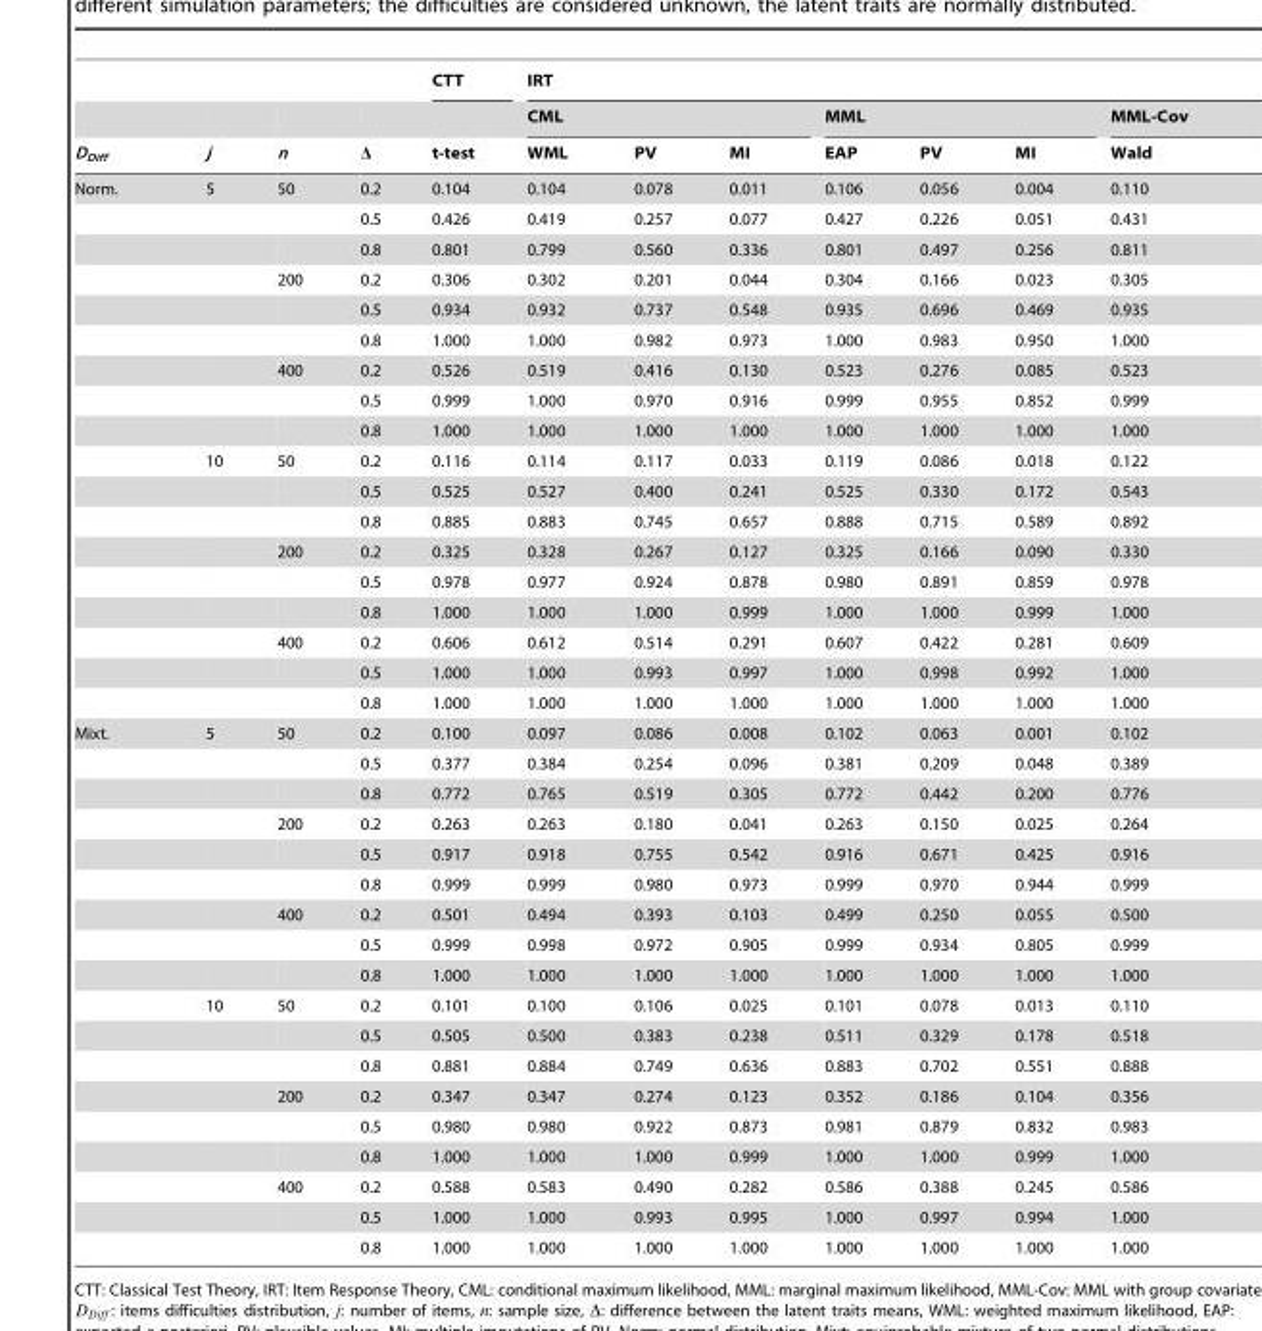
<table><thead><tr><td rowspan="3">D<sub>Diff</sub></td><td rowspan="3">j</td><td rowspan="3">n</td><td rowspan="3">Δ</td><td rowspan="3">CTT t-test</td><td colspan="7">IRT</td></tr><tr><td colspan="3">CML</td><td colspan="3">MML</td><td rowspan="2">MML-Cov Wald</td></tr><tr><td>WML</td><td>PV</td><td>MI</td><td>EAP</td><td>PV</td><td>MI</td></tr></thead><tbody><tr><td rowspan="18">Norm.</td><td>5</td><td>50</td><td>0.2</td><td>0.104</td><td>0.104</td><td>0.078</td><td>0.011</td><td>0.106</td><td>0.056</td><td>0.004</td><td>0.110</td></tr><tr><td></td><td></td><td>0.5</td><td>0.426</td><td>0.419</td><td>0.257</td><td>0.077</td><td>0.427</td><td>0.226</td><td>0.051</td><td>0.431</td></tr><tr><td></td><td></td><td>0.8</td><td>0.801</td><td>0.799</td><td>0.560</td><td>0.336</td><td>0.801</td><td>0.497</td><td>0.256</td><td>0.811</td></tr><tr><td></td><td>200</td><td>0.2</td><td>0.306</td><td>0.302</td><td>0.201</td><td>0.044</td><td>0.304</td><td>0.166</td><td>0.023</td><td>0.305</td></tr><tr><td></td><td></td><td>0.5</td><td>0.934</td><td>0.932</td><td>0.737</td><td>0.548</td><td>0.935</td><td>0.696</td><td>0.469</td><td>0.935</td></tr><tr><td></td><td></td><td>0.8</td><td>1.000</td><td>1.000</td><td>0.982</td><td>0.973</td><td>1.000</td><td>0.983</td><td>0.950</td><td>1.000</td></tr><tr><td></td><td>400</td><td>0.2</td><td>0.526</td><td>0.519</td><td>0.416</td><td>0.130</td><td>0.523</td><td>0.276</td><td>0.085</td><td>0.523</td></tr><tr><td></td><td></td><td>0.5</td><td>0.999</td><td>1.000</td><td>0.970</td><td>0.916</td><td>0.999</td><td>0.955</td><td>0.852</td><td>0.999</td></tr><tr><td></td><td></td><td>0.8</td><td>1.000</td><td>1.000</td><td>1.000</td><td>1.000</td><td>1.000</td><td>1.000</td><td>1.000</td><td>1.000</td></tr><tr><td>10</td><td>50</td><td>0.2</td><td>0.116</td><td>0.114</td><td>0.117</td><td>0.033</td><td>0.119</td><td>0.086</td><td>0.018</td><td>0.122</td></tr><tr><td></td><td></td><td>0.5</td><td>0.525</td><td>0.527</td><td>0.400</td><td>0.241</td><td>0.525</td><td>0.330</td><td>0.172</td><td>0.543</td></tr><tr><td></td><td></td><td>0.8</td><td>0.885</td><td>0.883</td><td>0.745</td><td>0.657</td><td>0.888</td><td>0.715</td><td>0.589</td><td>0.892</td></tr><tr><td></td><td>200</td><td>0.2</td><td>0.325</td><td>0.328</td><td>0.267</td><td>0.127</td><td>0.325</td><td>0.166</td><td>0.090</td><td>0.330</td></tr><tr><td></td><td></td><td>0.5</td><td>0.978</td><td>0.977</td><td>0.924</td><td>0.878</td><td>0.980</td><td>0.891</td><td>0.859</td><td>0.978</td></tr><tr><td></td><td></td><td>0.8</td><td>1.000</td><td>1.000</td><td>1.000</td><td>0.999</td><td>1.000</td><td>1.000</td><td>0.999</td><td>1.000</td></tr><tr><td></td><td>400</td><td>0.2</td><td>0.606</td><td>0.612</td><td>0.514</td><td>0.291</td><td>0.607</td><td>0.422</td><td>0.281</td><td>0.609</td></tr><tr><td></td><td></td><td>0.5</td><td>1.000</td><td>1.000</td><td>0.993</td><td>0.997</td><td>1.000</td><td>0.998</td><td>0.992</td><td>1.000</td></tr><tr><td></td><td></td><td>0.8</td><td>1.000</td><td>1.000</td><td>1.000</td><td>1.000</td><td>1.000</td><td>1.000</td><td>1.000</td><td>1.000</td></tr><tr><td rowspan="18">Mixt.</td><td>5</td><td>50</td><td>0.2</td><td>0.100</td><td>0.097</td><td>0.086</td><td>0.008</td><td>0.102</td><td>0.063</td><td>0.001</td><td>0.102</td></tr><tr><td></td><td></td><td>0.5</td><td>0.377</td><td>0.384</td><td>0.254</td><td>0.096</td><td>0.381</td><td>0.209</td><td>0.048</td><td>0.389</td></tr><tr><td></td><td></td><td>0.8</td><td>0.772</td><td>0.765</td><td>0.519</td><td>0.305</td><td>0.772</td><td>0.442</td><td>0.200</td><td>0.776</td></tr><tr><td></td><td>200</td><td>0.2</td><td>0.263</td><td>0.263</td><td>0.180</td><td>0.041</td><td>0.263</td><td>0.150</td><td>0.025</td><td>0.264</td></tr><tr><td></td><td></td><td>0.5</td><td>0.917</td><td>0.918</td><td>0.755</td><td>0.542</td><td>0.916</td><td>0.671</td><td>0.425</td><td>0.916</td></tr><tr><td></td><td></td><td>0.8</td><td>0.999</td><td>0.999</td><td>0.980</td><td>0.973</td><td>0.999</td><td>0.970</td><td>0.944</td><td>0.999</td></tr><tr><td></td><td>400</td><td>0.2</td><td>0.501</td><td>0.494</td><td>0.393</td><td>0.103</td><td>0.499</td><td>0.250</td><td>0.055</td><td>0.500</td></tr><tr><td></td><td></td><td>0.5</td><td>0.999</td><td>0.998</td><td>0.972</td><td>0.905</td><td>0.999</td><td>0.934</td><td>0.805</td><td>0.999</td></tr><tr><td></td><td></td><td>0.8</td><td>1.000</td><td>1.000</td><td>1.000</td><td>1.000</td><td>1.000</td><td>1.000</td><td>1.000</td><td>1.000</td></tr><tr><td>10</td><td>50</td><td>0.2</td><td>0.101</td><td>0.100</td><td>0.106</td><td>0.025</td><td>0.101</td><td>0.078</td><td>0.013</td><td>0.110</td></tr><tr><td></td><td></td><td>0.5</td><td>0.505</td><td>0.500</td><td>0.383</td><td>0.238</td><td>0.511</td><td>0.329</td><td>0.178</td><td>0.518</td></tr><tr><td></td><td></td><td>0.8</td><td>0.881</td><td>0.884</td><td>0.749</td><td>0.636</td><td>0.883</td><td>0.702</td><td>0.551</td><td>0.888</td></tr><tr><td></td><td>200</td><td>0.2</td><td>0.347</td><td>0.347</td><td>0.274</td><td>0.123</td><td>0.352</td><td>0.186</td><td>0.104</td><td>0.356</td></tr><tr><td></td><td></td><td>0.5</td><td>0.980</td><td>0.980</td><td>0.922</td><td>0.873</td><td>0.981</td><td>0.879</td><td>0.832</td><td>0.983</td></tr><tr><td></td><td></td><td>0.8</td><td>1.000</td><td>1.000</td><td>1.000</td><td>0.999</td><td>1.000</td><td>1.000</td><td>0.999</td><td>1.000</td></tr><tr><td></td><td>400</td><td>0.2</td><td>0.588</td><td>0.583</td><td>0.490</td><td>0.282</td><td>0.586</td><td>0.388</td><td>0.245</td><td>0.586</td></tr><tr><td></td><td></td><td>0.5</td><td>1.000</td><td>1.000</td><td>0.993</td><td>0.995</td><td>1.000</td><td>0.997</td><td>0.994</td><td>1.000</td></tr><tr><td></td><td></td><td>0.8</td><td>1.000</td><td>1.000</td><td>1.000</td><td>1.000</td><td>1.000</td><td>1.000</td><td>1.000</td><td>1.000</td></tr></tbody></table>